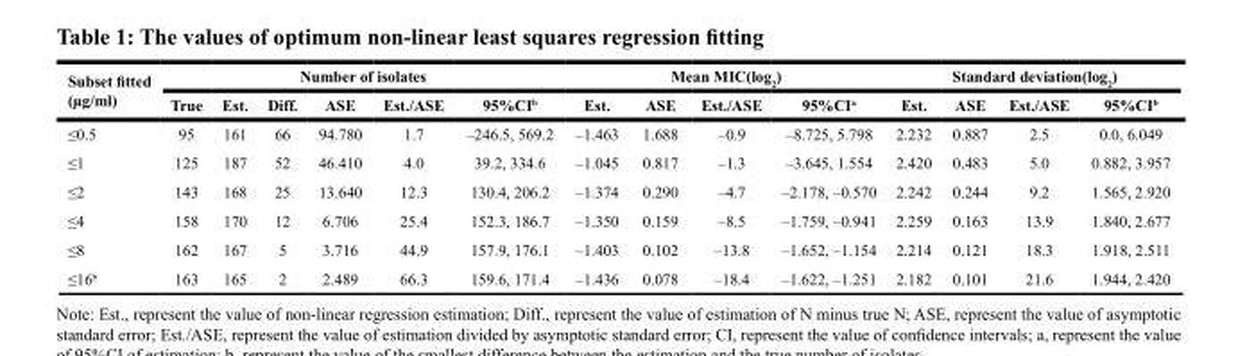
<table><thead><tr><td rowspan="2">Subset fitted (μg/ml)</td><td colspan="6">Number of isolates</td><td colspan="4">Mean MIC(log<sub>2</sub>)</td><td colspan="4">Standard deviation(log<sub>2</sub>)</td></tr><tr><td>True</td><td>Est.</td><td>Diff.</td><td>ASE</td><td>Est./ASE</td><td>95%CI<sup>b</sup></td><td>Est.</td><td>ASE</td><td>Est./ASE</td><td>95%CI<sup>a</sup></td><td>Est.</td><td>ASE</td><td>Est./ASE</td><td>95%CI<sup>b</sup></td></tr></thead><tbody><tr><td>≤0.5</td><td>95</td><td>161</td><td>66</td><td>94.780</td><td>1.7</td><td>–246.5, 569.2</td><td>–1.463</td><td>1.688</td><td>–0.9</td><td>–8.725, 5.798</td><td>2.232</td><td>0.887</td><td>2.5</td><td>0.0, 6.049</td></tr><tr><td>≤1</td><td>125</td><td>187</td><td>52</td><td>46.410</td><td>4.0</td><td>39.2, 334.6</td><td>–1.045</td><td>0.817</td><td>–1.3</td><td>–3.645, 1.554</td><td>2.420</td><td>0.483</td><td>5.0</td><td>0.882, 3.957</td></tr><tr><td>≤2</td><td>143</td><td>168</td><td>25</td><td>13.640</td><td>12.3</td><td>130.4, 206.2</td><td>–1.374</td><td>0.290</td><td>–4.7</td><td>–2.178, –0.570</td><td>2.242</td><td>0.244</td><td>9.2</td><td>1.565, 2.920</td></tr><tr><td>≤4</td><td>158</td><td>170</td><td>12</td><td>6.706</td><td>25.4</td><td>152.3, 186.7</td><td>–1.350</td><td>0.159</td><td>–8.5</td><td>–1.759, –0.941</td><td>2.259</td><td>0.163</td><td>13.9</td><td>1.840, 2.677</td></tr><tr><td>≤8</td><td>162</td><td>167</td><td>5</td><td>3.716</td><td>44.9</td><td>157.9, 176.1</td><td>–1.403</td><td>0.102</td><td>–13.8</td><td>–1.652, –1.154</td><td>2.214</td><td>0.121</td><td>18.3</td><td>1.918, 2.511</td></tr><tr><td>≤16<sup>b</sup></td><td>163</td><td>165</td><td>2</td><td>2.489</td><td>66.3</td><td>159.6, 171.4</td><td>–1.436</td><td>0.078</td><td>–18.4</td><td>–1.622, –1.251</td><td>2.182</td><td>0.101</td><td>21.6</td><td>1.944, 2.420</td></tr></tbody></table>